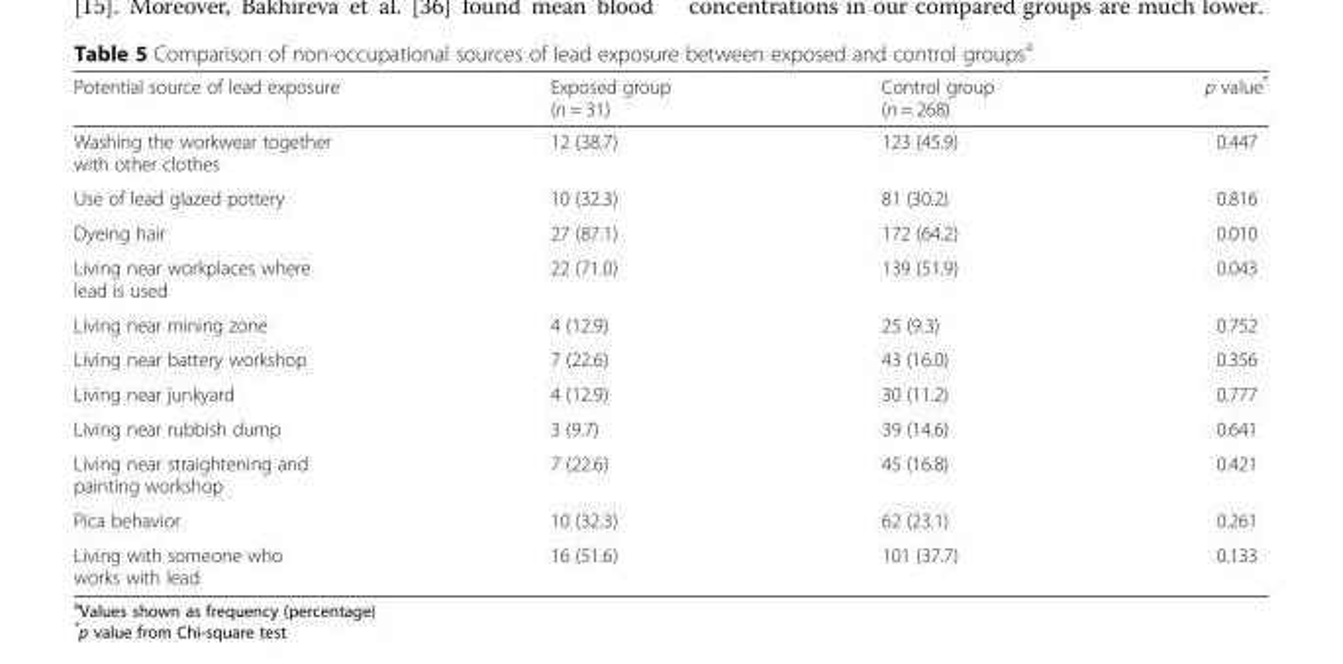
<table><thead><tr><td>Potential source of lead exposure</td><td>Exposed group (n = 31)</td><td>Control group (n = 268)</td><td>p value*</td></tr></thead><tbody><tr><td>Washing the workwear together with other clothes</td><td>12 (38.7)</td><td>123 (45.9)</td><td>0.447</td></tr><tr><td>Use of lead glazed pottery</td><td>10 (32.3)</td><td>81 (30.2)</td><td>0.816</td></tr><tr><td>Dyeing hair</td><td>27 (87.1)</td><td>172 (64.2)</td><td>0.010</td></tr><tr><td>Living near workplaces where lead is used</td><td>22 (71.0)</td><td>139 (51.9)</td><td>0.043</td></tr><tr><td>Living near mining zone</td><td>4 (12.9)</td><td>25 (9.3)</td><td>0.752</td></tr><tr><td>Living near battery workshop</td><td>7 (22.6)</td><td>43 (16.0)</td><td>0.356</td></tr><tr><td>Living near junkyard</td><td>4 (12.9)</td><td>30 (11.2)</td><td>0.777</td></tr><tr><td>Living near rubbish dump</td><td>3 (9.7)</td><td>39 (14.6)</td><td>0.641</td></tr><tr><td>Living near straightening and painting workshop</td><td>7 (22.6)</td><td>45 (16.8)</td><td>0.421</td></tr><tr><td>Pica behavior</td><td>10 (32.3)</td><td>62 (23.1)</td><td>0.261</td></tr><tr><td>Living with someone who works with lead</td><td>16 (51.6)</td><td>101 (37.7)</td><td>0.133</td></tr></tbody></table>